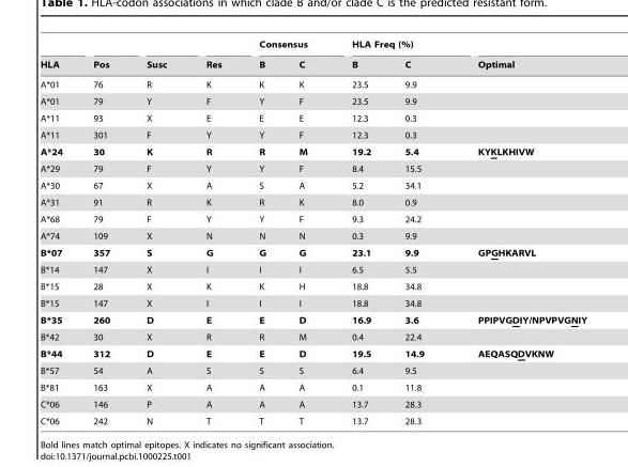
<table><thead><tr><td rowspan="2">HLA</td><td rowspan="2">Pos</td><td rowspan="2">Susc</td><td rowspan="2">Res</td><td colspan="2">Consensus</td><td colspan="2">HLA Freq (%)</td><td rowspan="2">Optimal</td></tr><tr><td>B</td><td>C</td><td>B</td><td>C</td></tr></thead><tbody><tr><td>A*01</td><td>76</td><td>R</td><td>K</td><td>K</td><td>K</td><td>23.5</td><td>9.9</td><td></td></tr><tr><td>A*01</td><td>79</td><td>Y</td><td>F</td><td>Y</td><td>F</td><td>23.5</td><td>9.9</td><td></td></tr><tr><td>A*11</td><td>93</td><td>X</td><td>E</td><td>E</td><td>E</td><td>12.3</td><td>0.3</td><td></td></tr><tr><td>A*11</td><td>301</td><td>F</td><td>Y</td><td>Y</td><td>F</td><td>12.3</td><td>0.3</td><td></td></tr><tr><td>A*24</td><td>30</td><td>K</td><td>R</td><td>R</td><td>M</td><td>19.2</td><td>5.4</td><td>KYKLKHIVW</td></tr><tr><td>A*29</td><td>79</td><td>F</td><td>Y</td><td>Y</td><td>F</td><td>8.4</td><td>15.5</td><td></td></tr><tr><td>A*30</td><td>67</td><td>X</td><td>A</td><td>S</td><td>A</td><td>5.2</td><td>34.1</td><td></td></tr><tr><td>A*31</td><td>91</td><td>R</td><td>K</td><td>R</td><td>K</td><td>8.0</td><td>0.9</td><td></td></tr><tr><td>A*68</td><td>79</td><td>F</td><td>Y</td><td>Y</td><td>F</td><td>9.3</td><td>24.2</td><td></td></tr><tr><td>A*74</td><td>109</td><td>X</td><td>N</td><td>N</td><td>N</td><td>0.3</td><td>9.9</td><td></td></tr><tr><td>B*07</td><td>357</td><td>S</td><td>G</td><td>G</td><td>G</td><td>23.1</td><td>9.9</td><td>GPGHKARVL</td></tr><tr><td>B*14</td><td>147</td><td>X</td><td>I</td><td>I</td><td>I</td><td>6.5</td><td>5.5</td><td></td></tr><tr><td>B*15</td><td>28</td><td>X</td><td>K</td><td>K</td><td>H</td><td>18.8</td><td>34.8</td><td></td></tr><tr><td>B*15</td><td>147</td><td>X</td><td>I</td><td>I</td><td>I</td><td>18.8</td><td>34.8</td><td></td></tr><tr><td>B*35</td><td>260</td><td>D</td><td>E</td><td>E</td><td>D</td><td>16.9</td><td>3.6</td><td>PPIPVGDIY/NPVPVGNIY</td></tr><tr><td>B*42</td><td>30</td><td>X</td><td>R</td><td>R</td><td>M</td><td>0.4</td><td>22.4</td><td></td></tr><tr><td>B*44</td><td>312</td><td>D</td><td>E</td><td>E</td><td>D</td><td>19.5</td><td>14.9</td><td>AEQASQDVKNW</td></tr><tr><td>B*57</td><td>54</td><td>A</td><td>S</td><td>S</td><td>S</td><td>6.4</td><td>9.5</td><td></td></tr><tr><td>B*81</td><td>163</td><td>X</td><td>A</td><td>A</td><td>A</td><td>0.1</td><td>11.8</td><td></td></tr><tr><td>C*06</td><td>146</td><td>P</td><td>A</td><td>A</td><td>A</td><td>13.7</td><td>28.3</td><td></td></tr><tr><td>C*06</td><td>242</td><td>N</td><td>T</td><td>T</td><td>T</td><td>13.7</td><td>28.3</td><td></td></tr></tbody></table>